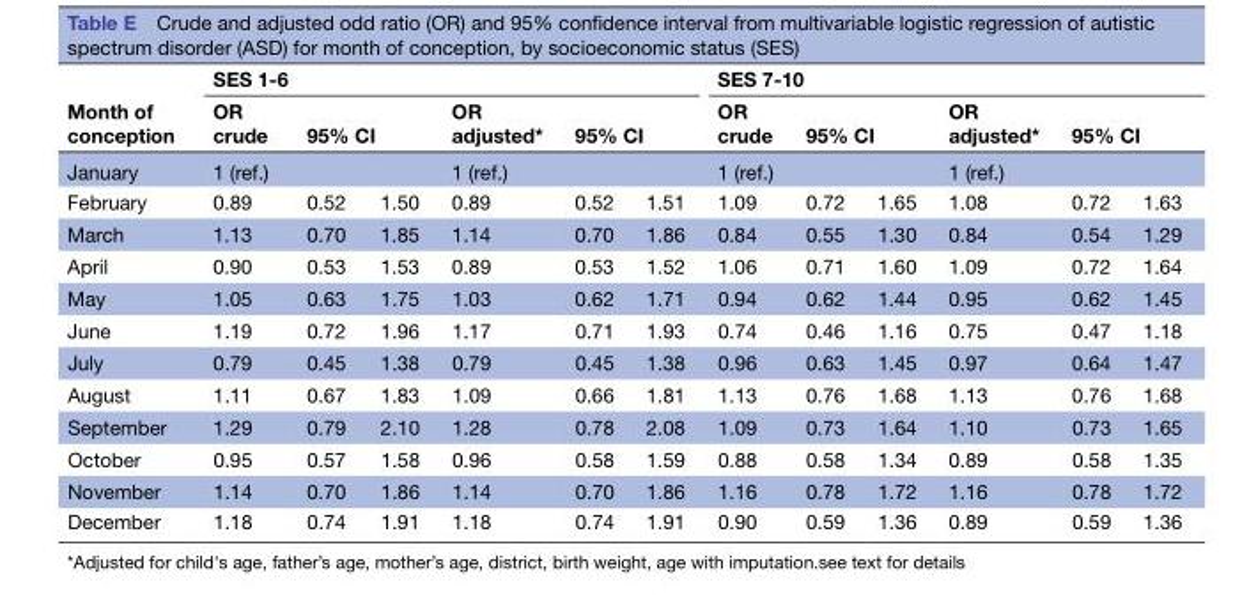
<table><thead><tr><td rowspan="3">Month of conception January</td><td colspan="6">SES 1-6</td><td colspan="6">SES 7-10</td></tr><tr><td rowspan="2">OR crude 1 (ref.)</td><td colspan="2">95% CI</td><td rowspan="2">OR adjusted* 1 (ref.)</td><td colspan="2">95% CI</td><td rowspan="2">OR crude 1 (ref.)</td><td colspan="2">95% CI</td><td rowspan="2">OR adjusted* 1 (ref.)</td><td colspan="2">95% CI</td></tr><tr><td></td><td></td><td></td><td></td><td></td><td></td><td></td><td></td></tr></thead><tbody><tr><td>February</td><td>0.89</td><td>0.52</td><td>1.50</td><td>0.89</td><td>0.52</td><td>1.51</td><td>1.09</td><td>0.72</td><td>1.65</td><td>1.08</td><td>0.72</td><td>1.63</td></tr><tr><td>March</td><td>1.13</td><td>0.70</td><td>1.85</td><td>1.14</td><td>0.70</td><td>1.86</td><td>0.84</td><td>0.55</td><td>1.30</td><td>0.84</td><td>0.54</td><td>1.29</td></tr><tr><td>April</td><td>0.90</td><td>0.53</td><td>1.53</td><td>0.89</td><td>0.53</td><td>1.52</td><td>1.06</td><td>0.71</td><td>1.60</td><td>1.09</td><td>0.72</td><td>1.64</td></tr><tr><td>May</td><td>1.05</td><td>0.63</td><td>1.75</td><td>1.03</td><td>0.62</td><td>1.71</td><td>0.94</td><td>0.62</td><td>1.44</td><td>0.95</td><td>0.62</td><td>1.45</td></tr><tr><td>June</td><td>1.19</td><td>0.72</td><td>1.96</td><td>1.17</td><td>0.71</td><td>1.93</td><td>0.74</td><td>0.46</td><td>1.16</td><td>0.75</td><td>0.47</td><td>1.18</td></tr><tr><td>July</td><td>0.79</td><td>0.45</td><td>1.38</td><td>0.79</td><td>0.45</td><td>1.38</td><td>0.96</td><td>0.63</td><td>1.45</td><td>0.97</td><td>0.64</td><td>1.47</td></tr><tr><td>August</td><td>1.11</td><td>0.67</td><td>1.83</td><td>1.09</td><td>0.66</td><td>1.81</td><td>1.13</td><td>0.76</td><td>1.68</td><td>1.13</td><td>0.76</td><td>1.68</td></tr><tr><td>September</td><td>1.29</td><td>0.79</td><td>2.10</td><td>1.28</td><td>0.78</td><td>2.08</td><td>1.09</td><td>0.73</td><td>1.64</td><td>1.10</td><td>0.73</td><td>1.65</td></tr><tr><td>October</td><td>0.95</td><td>0.57</td><td>1.58</td><td>0.96</td><td>0.58</td><td>1.59</td><td>0.88</td><td>0.58</td><td>1.34</td><td>0.89</td><td>0.58</td><td>1.35</td></tr><tr><td>November</td><td>1.14</td><td>0.70</td><td>1.86</td><td>1.14</td><td>0.70</td><td>1.86</td><td>1.16</td><td>0.78</td><td>1.72</td><td>1.16</td><td>0.78</td><td>1.72</td></tr><tr><td>December</td><td>1.18</td><td>0.74</td><td>1.91</td><td>1.18</td><td>0.74</td><td>1.91</td><td>0.90</td><td>0.59</td><td>1.36</td><td>0.89</td><td>0.59</td><td>1.36</td></tr></tbody></table>